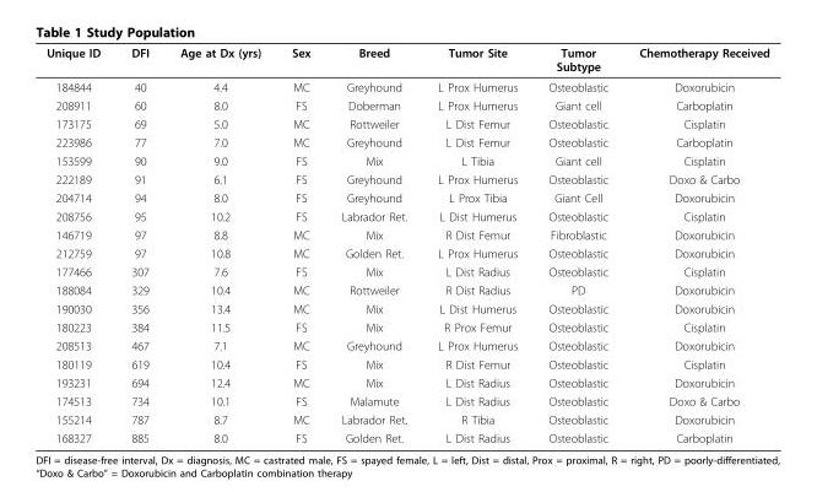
<table><thead><tr><td>Unique ID</td><td>DFI</td><td>Age at Dx (yrs)</td><td>Sex</td><td>Breed</td><td>Tumor Site</td><td>Tumor Subtype</td><td>Chemotherapy Received</td></tr></thead><tbody><tr><td>184844</td><td>40</td><td>4.4</td><td>MC</td><td>Greyhound</td><td>L Prox Humerus</td><td>Osteoblastic</td><td>Doxorubicin</td></tr><tr><td>208911</td><td>60</td><td>8.0</td><td>FS</td><td>Doberman</td><td>L Prox Humerus</td><td>Giant cell</td><td>Carboplatin</td></tr><tr><td>173175</td><td>69</td><td>5.0</td><td>MC</td><td>Rottweiler</td><td>L Dist Femur</td><td>Osteoblastic</td><td>Cisplatin</td></tr><tr><td>223986</td><td>77</td><td>7.0</td><td>MC</td><td>Greyhound</td><td>L Dist Femur</td><td>Osteoblastic</td><td>Carboplatin</td></tr><tr><td>153599</td><td>90</td><td>9.0</td><td>FS</td><td>Mix</td><td>L Tibia</td><td>Giant cell</td><td>Cisplatin</td></tr><tr><td>222189</td><td>91</td><td>6.1</td><td>FS</td><td>Greyhound</td><td>L Prox Humerus</td><td>Osteoblastic</td><td>Doxo &amp; Carbo</td></tr><tr><td>204714</td><td>94</td><td>8.0</td><td>FS</td><td>Greyhound</td><td>L Prox Tibia</td><td>Giant Cell</td><td>Doxorubicin</td></tr><tr><td>208756</td><td>95</td><td>10.2</td><td>FS</td><td>Labrador Ret.</td><td>L Dist Humerus</td><td>Osteoblastic</td><td>Cisplatin</td></tr><tr><td>146719</td><td>97</td><td>8.8</td><td>MC</td><td>Mix</td><td>R Dist Femur</td><td>Fibroblastic</td><td>Doxorubicin</td></tr><tr><td>212759</td><td>97</td><td>10.8</td><td>MC</td><td>Golden Ret.</td><td>L Prox Humerus</td><td>Osteoblastic</td><td>Doxorubicin</td></tr><tr><td>177466</td><td>307</td><td>7.6</td><td>FS</td><td>Mix</td><td>L Dist Radius</td><td>Osteoblastic</td><td>Cisplatin</td></tr><tr><td>188084</td><td>329</td><td>10.4</td><td>MC</td><td>Rottweiler</td><td>R Dist Radius</td><td>PD</td><td>Doxorubicin</td></tr><tr><td>190030</td><td>356</td><td>13.4</td><td>MC</td><td>Mix</td><td>L Dist Humerus</td><td>Osteoblastic</td><td>Doxorubicin</td></tr><tr><td>180223</td><td>384</td><td>11.5</td><td>FS</td><td>Mix</td><td>R Prox Femur</td><td>Osteoblastic</td><td>Cisplatin</td></tr><tr><td>208513</td><td>467</td><td>7.1</td><td>MC</td><td>Greyhound</td><td>L Prox Humerus</td><td>Osteoblastic</td><td>Doxorubicin</td></tr><tr><td>180119</td><td>619</td><td>10.4</td><td>FS</td><td>Mix</td><td>R Dist Femur</td><td>Osteoblastic</td><td>Cisplatin</td></tr><tr><td>193231</td><td>694</td><td>12.4</td><td>MC</td><td>Mix</td><td>L Dist Radius</td><td>Osteoblastic</td><td>Doxorubicin</td></tr><tr><td>174513</td><td>734</td><td>10.1</td><td>FS</td><td>Malamute</td><td>L Dist Radius</td><td>Osteoblastic</td><td>Doxo &amp; Carbo</td></tr><tr><td>155214</td><td>787</td><td>8.7</td><td>MC</td><td>Labrador Ret.</td><td>R Tibia</td><td>Osteoblastic</td><td>Doxorubicin</td></tr><tr><td>168327</td><td>885</td><td>8.0</td><td>FS</td><td>Golden Ret.</td><td>L Dist Radius</td><td>Osteoblastic</td><td>Carboplatin</td></tr></tbody></table>